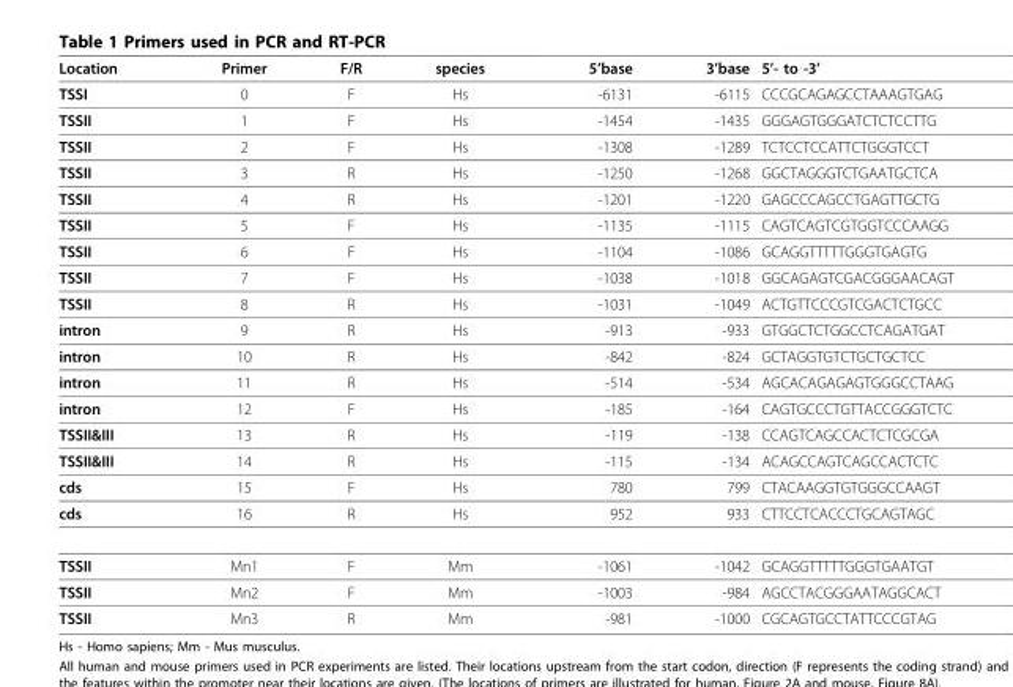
<table><thead><tr><td>Location</td><td>Primer</td><td>F/R</td><td>species</td><td>5’base</td><td>3’base</td><td>5’- to -3’</td></tr></thead><tbody><tr><td>TSSI</td><td>0</td><td>F</td><td>Hs</td><td>-6131</td><td>-6115</td><td>CCCGCAGAGCCTAAAGTGAG</td></tr><tr><td>TSSII</td><td>1</td><td>F</td><td>Hs</td><td>-1454</td><td>-1435</td><td>GGGAGTGGGATCTCTCCTTG</td></tr><tr><td>TSSII</td><td>2</td><td>F</td><td>Hs</td><td>-1308</td><td>-1289</td><td>TCTCCTCCATTCTGGGTCCT</td></tr><tr><td>TSSII</td><td>3</td><td>R</td><td>Hs</td><td>-1250</td><td>-1268</td><td>GGCTAGGGTCTGAATGCTCA</td></tr><tr><td>TSSII</td><td>4</td><td>R</td><td>Hs</td><td>-1201</td><td>-1220</td><td>GAGCCCAGCCTGAGTTGCTG</td></tr><tr><td>TSSII</td><td>5</td><td>F</td><td>Hs</td><td>-1135</td><td>-1115</td><td>CAGTCAGTCGTGGTCCCAAGG</td></tr><tr><td>TSSII</td><td>6</td><td>F</td><td>Hs</td><td>-1104</td><td>-1086</td><td>GCAGGTTTTTGGGTGAGTG</td></tr><tr><td>TSSII</td><td>7</td><td>F</td><td>Hs</td><td>-1038</td><td>-1018</td><td>GGCAGAGTCGACGGGAACAGT</td></tr><tr><td>TSSII</td><td>8</td><td>R</td><td>Hs</td><td>-1031</td><td>-1049</td><td>ACTGTTCCCGTCGACTCTGCC</td></tr><tr><td>intron</td><td>9</td><td>R</td><td>Hs</td><td>-913</td><td>-933</td><td>GTGGCTCTGGCCTCAGATGAT</td></tr><tr><td>intron</td><td>10</td><td>R</td><td>Hs</td><td>-842</td><td>-824</td><td>GCTAGGTGTCTGCTGCTCC</td></tr><tr><td>intron</td><td>11</td><td>R</td><td>Hs</td><td>-514</td><td>-534</td><td>AGCACAGAGAGTGGGCCTAAG</td></tr><tr><td>intron</td><td>12</td><td>F</td><td>Hs</td><td>-185</td><td>-164</td><td>CAGTGCCCTGTTACCGGGTCTC</td></tr><tr><td>TSSII&amp;III</td><td>13</td><td>R</td><td>Hs</td><td>-119</td><td>-138</td><td>CCAGTCAGCCACTCTCGCGA</td></tr><tr><td>TSSII&amp;III</td><td>14</td><td>R</td><td>Hs</td><td>-115</td><td>-134</td><td>ACAGCCAGTCAGCCACTCTC</td></tr><tr><td>cds</td><td>15</td><td>F</td><td>Hs</td><td>780</td><td>799</td><td>CTACAAGGTGTGGGCCAAGT</td></tr><tr><td>cds</td><td>16</td><td>R</td><td>Hs</td><td>952</td><td>933</td><td>CTTCCTCACCCTGCAGTAGC</td></tr><tr><td>TSSII</td><td>Mn1</td><td>F</td><td>Mm</td><td>-1061</td><td>-1042</td><td>GCAGGTTTTTGGGTGAATGT</td></tr><tr><td>TSSII</td><td>Mn2</td><td>F</td><td>Mm</td><td>-1003</td><td>-984</td><td>AGCCTACGGGAATAGGCACT</td></tr><tr><td>TSSII</td><td>Mn3</td><td>R</td><td>Mm</td><td>-981</td><td>-1000</td><td>CGCAGTGCCTATTCCCGTAG</td></tr></tbody></table>